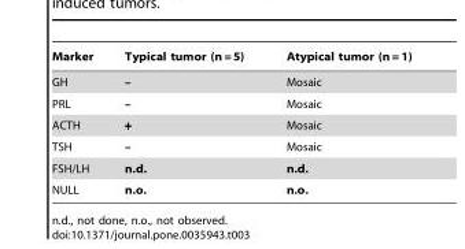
<table><thead><tr><td>Marker</td><td>Typical tumor (n = 5)</td><td>Atypical tumor (n = 1)</td></tr></thead><tbody><tr><td>GH</td><td>–</td><td>Mosaic</td></tr><tr><td>PRL</td><td>–</td><td>Mosaic</td></tr><tr><td>ACTH</td><td>+</td><td>Mosaic</td></tr><tr><td>TSH</td><td>–</td><td>Mosaic</td></tr><tr><td>FSH/LH</td><td>n.d.</td><td>n.d.</td></tr><tr><td>NULL</td><td>n.o.</td><td>n.o.</td></tr></tbody></table>